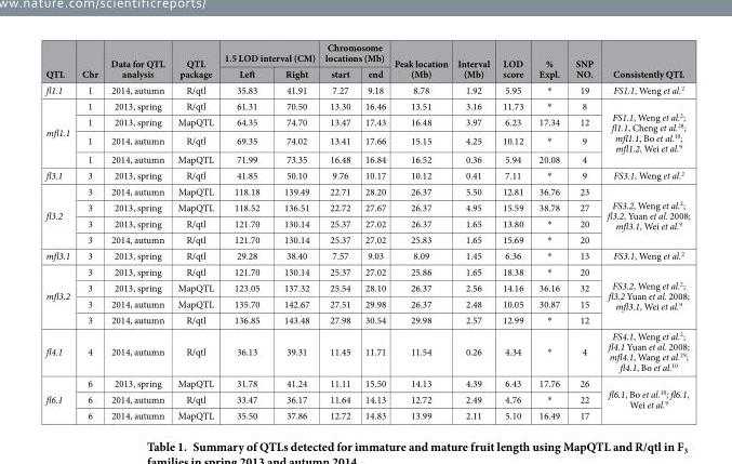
<table><thead><tr><td rowspan="2">QTL</td><td rowspan="2">Chr</td><td rowspan="2">Data for QTL analysis</td><td rowspan="2">QTL package</td><td colspan="2">1.5 LOD interval (CM)</td><td colspan="2">Chromosome locations (Mb)</td><td rowspan="2">Peak location (Mb)</td><td rowspan="2">Interval (Mb)</td><td rowspan="2">LOD score</td><td rowspan="2">% Expl.</td><td rowspan="2">SNP NO.</td><td rowspan="2">Consistently QTL</td></tr><tr><td>Left</td><td>Right</td><td>start</td><td>end</td></tr></thead><tbody><tr><td>fl1.1</td><td>1</td><td>2014, autumn</td><td>R/qtl</td><td>35.83</td><td>41.91</td><td>7.27</td><td>9.18</td><td>8.78</td><td>1.92</td><td>5.95</td><td>*</td><td>19</td><td>FS1.1, Weng et al.<sup>2</sup></td></tr><tr><td rowspan="4">mfl1.1</td><td>1</td><td>2013, spring</td><td>R/qtl</td><td>61.31</td><td>70.50</td><td>13.30</td><td>16.46</td><td>13.51</td><td>3.16</td><td>11.73</td><td>*</td><td>8</td><td rowspan="4">FS1.1, Weng et al.<sup>2</sup>; fl1.1, Cheng et al.<sup>28</sup>; mfl1.1, Bo et al.<sup>10</sup>; mfl1.2, Wei et al.<sup>9</sup></td></tr><tr><td>1</td><td>2013, spring</td><td>MapQTL</td><td>64.35</td><td>74.70</td><td>13.47</td><td>17.43</td><td>16.48</td><td>3.97</td><td>6.23</td><td>17.34</td><td>12</td></tr><tr><td>1</td><td>2014, autumn</td><td>R/qtl</td><td>69.35</td><td>74.02</td><td>13.41</td><td>17.66</td><td>15.15</td><td>4.25</td><td>10.12</td><td>*</td><td>9</td></tr><tr><td>1</td><td>2014, autumn</td><td>MapQTL</td><td>71.99</td><td>73.35</td><td>16.48</td><td>16.84</td><td>16.52</td><td>0.36</td><td>5.94</td><td>20.08</td><td>4</td></tr><tr><td>fl3.1</td><td>3</td><td>2013, spring</td><td>R/qtl</td><td>41.85</td><td>50.10</td><td>9.76</td><td>10.17</td><td>10.12</td><td>0.41</td><td>7.11</td><td>*</td><td>9</td><td>FS3.1, Weng et al.<sup>2</sup></td></tr><tr><td rowspan="4">fl3.2</td><td>3</td><td>2014, autumn</td><td>MapQTL</td><td>118.18</td><td>139.49</td><td>22.71</td><td>28.20</td><td>26.37</td><td>5.50</td><td>12.81</td><td>36.76</td><td>23</td><td rowspan="4">FS3.2, Weng et al.<sup>2</sup>; fl3.2, Yuan et al. 2008; mfl3.1, Wei et al.<sup>9</sup></td></tr><tr><td>3</td><td>2013, spring</td><td>MapQTL</td><td>118.52</td><td>136.51</td><td>22.72</td><td>27.67</td><td>26.37</td><td>4.95</td><td>15.59</td><td>38.78</td><td>27</td></tr><tr><td>3</td><td>2013, spring</td><td>R/qtl</td><td>121.70</td><td>130.14</td><td>25.37</td><td>27.02</td><td>26.37</td><td>1.65</td><td>13.80</td><td>*</td><td>20</td></tr><tr><td>3</td><td>2014, autumn</td><td>R/qtl</td><td>121.70</td><td>130.14</td><td>25.37</td><td>27.02</td><td>25.83</td><td>1.65</td><td>15.69</td><td>*</td><td>20</td></tr><tr><td>mfl3.1</td><td>3</td><td>2013, spring</td><td>R/qtl</td><td>29.28</td><td>38.40</td><td>7.57</td><td>9.03</td><td>8.09</td><td>1.45</td><td>6.36</td><td>*</td><td>13</td><td>FS3.1, Weng et al.<sup>2</sup></td></tr><tr><td rowspan="4">mfl3.2</td><td>3</td><td>2013, spring</td><td>R/qtl</td><td>121.70</td><td>130.14</td><td>25.37</td><td>27.02</td><td>25.86</td><td>1.65</td><td>18.38</td><td>*</td><td>20</td><td rowspan="4">FS3.2, Weng et al.<sup>2</sup>; fl3.2 Yuan et al. 2008; mfl3.1, Wei et al.<sup>9</sup></td></tr><tr><td>3</td><td>2013, spring</td><td>MapQTL</td><td>123.05</td><td>137.32</td><td>25.54</td><td>28.10</td><td>26.37</td><td>2.56</td><td>14.16</td><td>36.16</td><td>32</td></tr><tr><td>3</td><td>2014, autumn</td><td>MapQTL</td><td>135.70</td><td>142.67</td><td>27.51</td><td>29.98</td><td>26.37</td><td>2.48</td><td>10.05</td><td>30.87</td><td>15</td></tr><tr><td>3</td><td>2014, autumn</td><td>R/qtl</td><td>136.85</td><td>143.48</td><td>27.98</td><td>30.54</td><td>29.98</td><td>2.57</td><td>12.99</td><td>*</td><td>12</td></tr><tr><td>fl4.1</td><td>4</td><td>2014, autumn</td><td>R/qtl</td><td>36.13</td><td>39.31</td><td>11.45</td><td>11.71</td><td>11.54</td><td>0.26</td><td>4.34</td><td>*</td><td>4</td><td>FS4.1, Weng et al.<sup>2</sup>; fl4.1 Yuan et al. 2008; mfl4.1, Wang et al.<sup>29</sup>; fl4.1, Bo et al.<sup>10</sup></td></tr><tr><td rowspan="3">fl6.1</td><td>6</td><td>2013, spring</td><td>MapQTL</td><td>31.78</td><td>41.24</td><td>11.11</td><td>15.50</td><td>14.13</td><td>4.39</td><td>6.43</td><td>17.76</td><td>26</td><td rowspan="3">fl6.1, Bo et al.<sup>10</sup>; fl6.1, Wei et al.<sup>9</sup></td></tr><tr><td>6</td><td>2014, autumn</td><td>R/qtl</td><td>33.47</td><td>36.17</td><td>11.64</td><td>14.13</td><td>12.72</td><td>2.49</td><td>4.76</td><td>*</td><td>22</td></tr><tr><td>6</td><td>2014, autumn</td><td>MapQTL</td><td>35.50</td><td>37.86</td><td>12.72</td><td>14.83</td><td>13.99</td><td>2.11</td><td>5.10</td><td>16.49</td><td>17</td></tr></tbody></table>